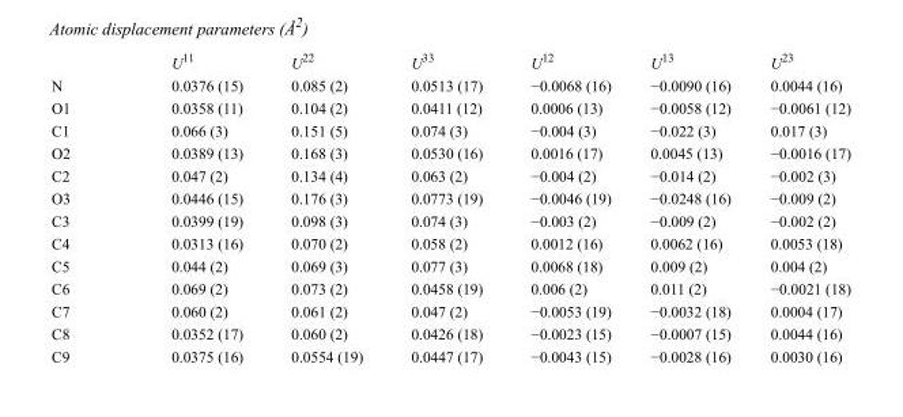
<table><thead><tr><td></td><td>U<sup>11</sup></td><td>U<sup>22</sup></td><td>U<sup>33</sup></td><td>U<sup>12</sup></td><td>U<sup>13</sup></td><td>U<sup>23</sup></td></tr></thead><tbody><tr><td>N</td><td>0.0376 (15)</td><td>0.085 (2)</td><td>0.0513 (17)</td><td>−0.0068 (16)</td><td>−0.0090 (16)</td><td>0.0044 (16)</td></tr><tr><td>O1</td><td>0.0358 (11)</td><td>0.104 (2)</td><td>0.0411 (12)</td><td>0.0006 (13)</td><td>−0.0058 (12)</td><td>−0.0061 (12)</td></tr><tr><td>C1</td><td>0.066 (3)</td><td>0.151 (5)</td><td>0.074 (3)</td><td>−0.004 (3)</td><td>−0.022 (3)</td><td>0.017 (3)</td></tr><tr><td>O2</td><td>0.0389 (13)</td><td>0.168 (3)</td><td>0.0530 (16)</td><td>0.0016 (17)</td><td>0.0045 (13)</td><td>−0.0016 (17)</td></tr><tr><td>C2</td><td>0.047 (2)</td><td>0.134 (4)</td><td>0.063 (2)</td><td>−0.004 (2)</td><td>−0.014 (2)</td><td>−0.002 (3)</td></tr><tr><td>O3</td><td>0.0446 (15)</td><td>0.176 (3)</td><td>0.0773 (19)</td><td>−0.0046 (19)</td><td>−0.0248 (16)</td><td>−0.009 (2)</td></tr><tr><td>C3</td><td>0.0399 (19)</td><td>0.098 (3)</td><td>0.074 (3)</td><td>−0.003 (2)</td><td>−0.009 (2)</td><td>−0.002 (2)</td></tr><tr><td>C4</td><td>0.0313 (16)</td><td>0.070 (2)</td><td>0.058 (2)</td><td>0.0012 (16)</td><td>0.0062 (16)</td><td>0.0053 (18)</td></tr><tr><td>C5</td><td>0.044 (2)</td><td>0.069 (3)</td><td>0.077 (3)</td><td>0.0068 (18)</td><td>0.009 (2)</td><td>0.004 (2)</td></tr><tr><td>C6</td><td>0.069 (2)</td><td>0.073 (2)</td><td>0.0458 (19)</td><td>0.006 (2)</td><td>0.011 (2)</td><td>−0.0021 (18)</td></tr><tr><td>C7</td><td>0.060 (2)</td><td>0.061 (2)</td><td>0.047 (2)</td><td>−0.0053 (19)</td><td>−0.0032 (18)</td><td>0.0004 (17)</td></tr><tr><td>C8</td><td>0.0352 (17)</td><td>0.060 (2)</td><td>0.0426 (18)</td><td>−0.0023 (15)</td><td>−0.0007 (15)</td><td>0.0044 (16)</td></tr><tr><td>C9</td><td>0.0375 (16)</td><td>0.0554 (19)</td><td>0.0447 (17)</td><td>−0.0043 (15)</td><td>−0.0028 (16)</td><td>0.0030 (16)</td></tr></tbody></table>